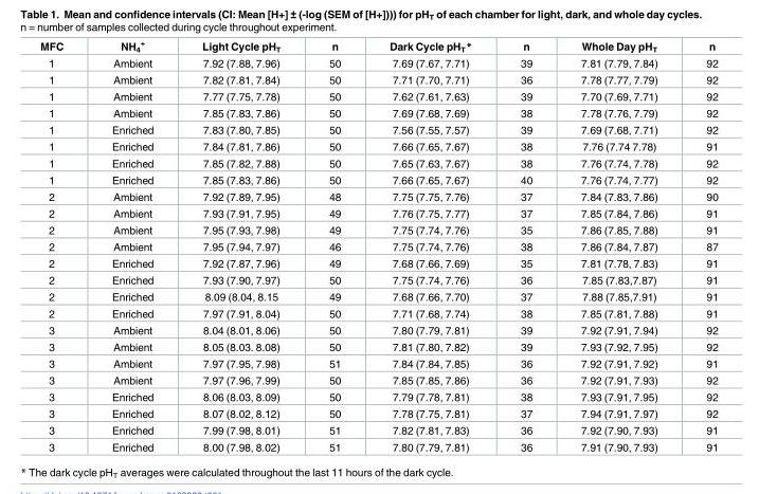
<table><thead><tr><td>MFC</td><td>NH<sub>4</sub> <sup>+</sup></td><td>Light Cycle pH<sub>T</sub></td><td>n</td><td>Dark Cycle pH<sub>T</sub>*</td><td>n</td><td>Whole Day pH<sub>T</sub></td><td>n</td></tr></thead><tbody><tr><td>1</td><td>Ambient</td><td>7.92 (7.88, 7.96)</td><td>50</td><td>7.69 (7.67, 7.71)</td><td>39</td><td>7.81 (7.79, 7.84)</td><td>92</td></tr><tr><td>1</td><td>Ambient</td><td>7.82 (7.81, 7.84)</td><td>50</td><td>7.71 (7.70, 7.71)</td><td>36</td><td>7.78 (7.77, 7.79)</td><td>92</td></tr><tr><td>1</td><td>Ambient</td><td>7.77 (7.75, 7.78)</td><td>50</td><td>7.62 (7.61, 7.63)</td><td>39</td><td>7.70 (7.69, 7.71)</td><td>92</td></tr><tr><td>1</td><td>Ambient</td><td>7.85 (7.83, 7.86)</td><td>50</td><td>7.69 (7.68, 7.69)</td><td>38</td><td>7.78 (7.76, 7.79)</td><td>92</td></tr><tr><td>1</td><td>Enriched</td><td>7.83 (7.80, 7.85)</td><td>50</td><td>7.56 (7.55, 7.57)</td><td>39</td><td>7.69 (7.68, 7.71)</td><td>92</td></tr><tr><td>1</td><td>Enriched</td><td>7.84 (7.81, 7.86)</td><td>50</td><td>7.66 (7.65, 7.67)</td><td>38</td><td>7.76 (7.74 7.78)</td><td>91</td></tr><tr><td>1</td><td>Enriched</td><td>7.85 (7.82, 7.88)</td><td>50</td><td>7.65 (7.63, 7.67)</td><td>38</td><td>7.76 (7.74, 7.78)</td><td>92</td></tr><tr><td>1</td><td>Enriched</td><td>7.85 (7.83, 7.86)</td><td>50</td><td>7.66 (7.65, 7.67)</td><td>40</td><td>7.76 (7.74, 7.77)</td><td>92</td></tr><tr><td>2</td><td>Ambient</td><td>7.92 (7.89, 7.95)</td><td>48</td><td>7.75 (7.75, 7.76)</td><td>37</td><td>7.84 (7.83, 7.86)</td><td>90</td></tr><tr><td>2</td><td>Ambient</td><td>7.93 (7.91, 7.95)</td><td>49</td><td>7.76 (7.75, 7.77)</td><td>37</td><td>7.85 (7.84, 7.86)</td><td>91</td></tr><tr><td>2</td><td>Ambient</td><td>7.95 (7.93, 7.98)</td><td>49</td><td>7.75 (7.74, 7.76)</td><td>35</td><td>7.86 (7.85, 7.88)</td><td>91</td></tr><tr><td>2</td><td>Ambient</td><td>7.95 (7.94, 7.97)</td><td>46</td><td>7.75 (7.74, 7.76)</td><td>38</td><td>7.86 (7.84, 7.87)</td><td>87</td></tr><tr><td>2</td><td>Enriched</td><td>7.92 (7.87, 7.96)</td><td>49</td><td>7.68 (7.66, 7.69)</td><td>35</td><td>7.81 (7.78, 7.83)</td><td>91</td></tr><tr><td>2</td><td>Enriched</td><td>7.93 (7.90, 7.97)</td><td>50</td><td>7.75 (7.74, 7.76)</td><td>36</td><td>7.85 (7.83,7.87)</td><td>91</td></tr><tr><td>2</td><td>Enriched</td><td>8.09 (8.04, 8.15</td><td>49</td><td>7.68 (7.66, 7.70)</td><td>37</td><td>7.88 (7.85,7.91)</td><td>91</td></tr><tr><td>2</td><td>Enriched</td><td>7.97 (7.91, 8.04)</td><td>50</td><td>7.71 (7.68, 7.74)</td><td>38</td><td>7.85 (7.81, 7.88)</td><td>91</td></tr><tr><td>3</td><td>Ambient</td><td>8.04 (8.01, 8.06)</td><td>50</td><td>7.80 (7.79, 7.81)</td><td>39</td><td>7.92 (7.91, 7.94)</td><td>92</td></tr><tr><td>3</td><td>Ambient</td><td>8.05 (8.03. 8.08)</td><td>50</td><td>7.81 (7.80, 7.82)</td><td>39</td><td>7.93 (7.92, 7.95)</td><td>92</td></tr><tr><td>3</td><td>Ambient</td><td>7.97 (7.95, 7.98)</td><td>51</td><td>7.84 (7.84, 7.85)</td><td>36</td><td>7.92 (7.91, 7.92)</td><td>91</td></tr><tr><td>3</td><td>Ambient</td><td>7.97 (7.96, 7.99)</td><td>50</td><td>7.85 (7.85, 7.86)</td><td>36</td><td>7.92 (7.91, 7.93)</td><td>92</td></tr><tr><td>3</td><td>Enriched</td><td>8.06 (8.03, 8.09)</td><td>50</td><td>7.79 (7.78, 7.81)</td><td>38</td><td>7.93 (7.91, 7.95)</td><td>92</td></tr><tr><td>3</td><td>Enriched</td><td>8.07 (8.02, 8.12)</td><td>50</td><td>7.78 (7.75, 7.81)</td><td>37</td><td>7.94 (7.91, 7.97)</td><td>92</td></tr><tr><td>3</td><td>Enriched</td><td>7.99 (7.98, 8.01)</td><td>51</td><td>7.82 (7.81, 7.83)</td><td>36</td><td>7.92 (7.90, 7.93)</td><td>91</td></tr><tr><td>3</td><td>Enriched</td><td>8.00 (7.98, 8.02)</td><td>51</td><td>7.80 (7.79, 7.81)</td><td>36</td><td>7.91 (7.90, 7.93)</td><td>91</td></tr></tbody></table>